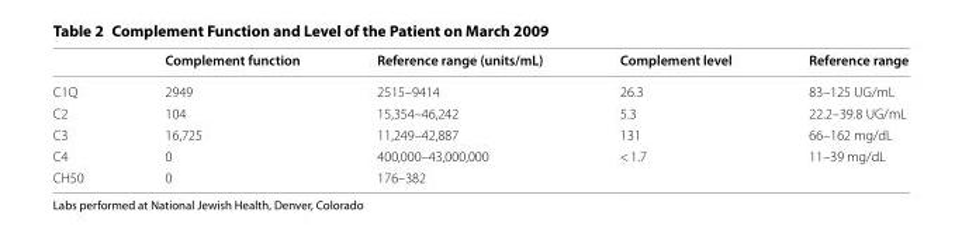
<table><thead><tr><td></td><td>Complement function</td><td>Reference range (units/mL)</td><td>Complement level</td><td>Reference range</td></tr></thead><tbody><tr><td>C1Q</td><td>2949</td><td>2515–9414</td><td>26.3</td><td>83–125 UG/mL</td></tr><tr><td>C2</td><td>104</td><td>15,354–46,242</td><td>5.3</td><td>22.2–39.8 UG/mL</td></tr><tr><td>C3</td><td>16,725</td><td>11,249–42,887</td><td>131</td><td>66–162 mg/dL</td></tr><tr><td>C4</td><td>0</td><td>400,000–43,000,000</td><td>&lt; 1.7</td><td>11–39 mg/dL</td></tr><tr><td>CH50</td><td>0</td><td>176–382</td><td></td><td></td></tr></tbody></table>